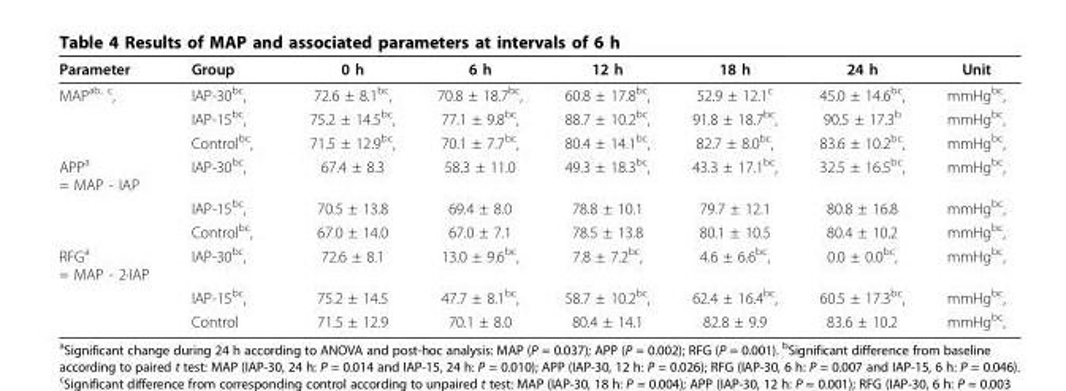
<table><thead><tr><td>Parameter</td><td>Group</td><td>0 h</td><td>6 h</td><td>12 h</td><td>18 h</td><td>24 h</td><td>Unit</td></tr></thead><tbody><tr><td rowspan="3">MAP<sup>ab, c</sup>,</td><td>IAP-30<sup>bc</sup>,</td><td>72.6 ± 8.1<sup>bc</sup>,</td><td>70.8 ± 18.7<sup>bc</sup>,</td><td>60.8 ± 17.8<sup>bc</sup>,</td><td>52.9 ± 12.1<sup>c</sup></td><td>45.0 ± 14.6<sup>bc</sup>,</td><td>mmHg<sup>bc</sup>,</td></tr><tr><td>IAP-15<sup>bc</sup>,</td><td>75.2 ± 14.5<sup>bc</sup>,</td><td>77.1 ± 9.8<sup>bc</sup>,</td><td>88.7 ± 10.2<sup>bc</sup>,</td><td>91.8 ± 18.7<sup>bc</sup>,</td><td>90.5 ± 17.3<sup>b</sup></td><td>mmHg<sup>bc</sup>,</td></tr><tr><td>Control<sup>bc</sup>,</td><td>71.5 ± 12.9<sup>bc</sup>,</td><td>70.1 ± 7.7<sup>bc</sup>,</td><td>80.4 ± 14.1<sup>bc</sup>,</td><td>82.7 ± 8.0<sup>bc</sup>,</td><td>83.6 ± 10.2<sup>bc</sup>,</td><td>mmHg<sup>bc</sup>,</td></tr><tr><td rowspan="3">APP<sup>a</sup> = MAP - IAP</td><td>IAP-30<sup>bc</sup>,</td><td>67.4 ± 8.3</td><td>58.3 ± 11.0</td><td>49.3 ± 18.3<sup>bc</sup>,</td><td>43.3 ± 17.1<sup>bc</sup>,</td><td>32.5 ± 16.5<sup>bc</sup>,</td><td>mmHg<sup>bc</sup>,</td></tr><tr><td>IAP-15<sup>bc</sup>,</td><td>70.5 ± 13.8</td><td>69.4 ± 8.0</td><td>78.8 ± 10.1</td><td>79.7 ± 12.1</td><td>80.8 ± 16.8</td><td>mmHg<sup>bc</sup>,</td></tr><tr><td>Control<sup>bc</sup>,</td><td>67.0 ± 14.0</td><td>67.0 ± 7.1</td><td>78.5 ± 13.8</td><td>80.1 ± 10.5</td><td>80.4 ± 10.2</td><td>mmHg<sup>bc</sup>,</td></tr><tr><td rowspan="3">RFG<sup>a</sup> = MAP - 2·IAP</td><td>IAP-30<sup>bc</sup>,</td><td>72.6 ± 8.1</td><td>13.0 ± 9.6<sup>bc</sup>,</td><td>7.8 ± 7.2<sup>bc</sup>,</td><td>4.6 ± 6.6<sup>bc</sup>,</td><td>0.0 ± 0.0<sup>bc</sup>,</td><td>mmHg<sup>bc</sup>,</td></tr><tr><td>IAP-15<sup>bc</sup>,</td><td>75.2 ± 14.5</td><td>47.7 ± 8.1<sup>bc</sup>,</td><td>58.7 ± 10.2<sup>bc</sup>,</td><td>62.4 ± 16.4<sup>bc</sup>,</td><td>60.5 ± 17.3<sup>bc</sup>,</td><td>mmHg<sup>bc</sup>,</td></tr><tr><td>Control</td><td>71.5 ± 12.9</td><td>70.1 ± 8.0</td><td>80.4 ± 14.1</td><td>82.8 ± 9.9</td><td>83.6 ± 10.2</td><td>mmHg<sup>bc</sup>,</td></tr></tbody></table>